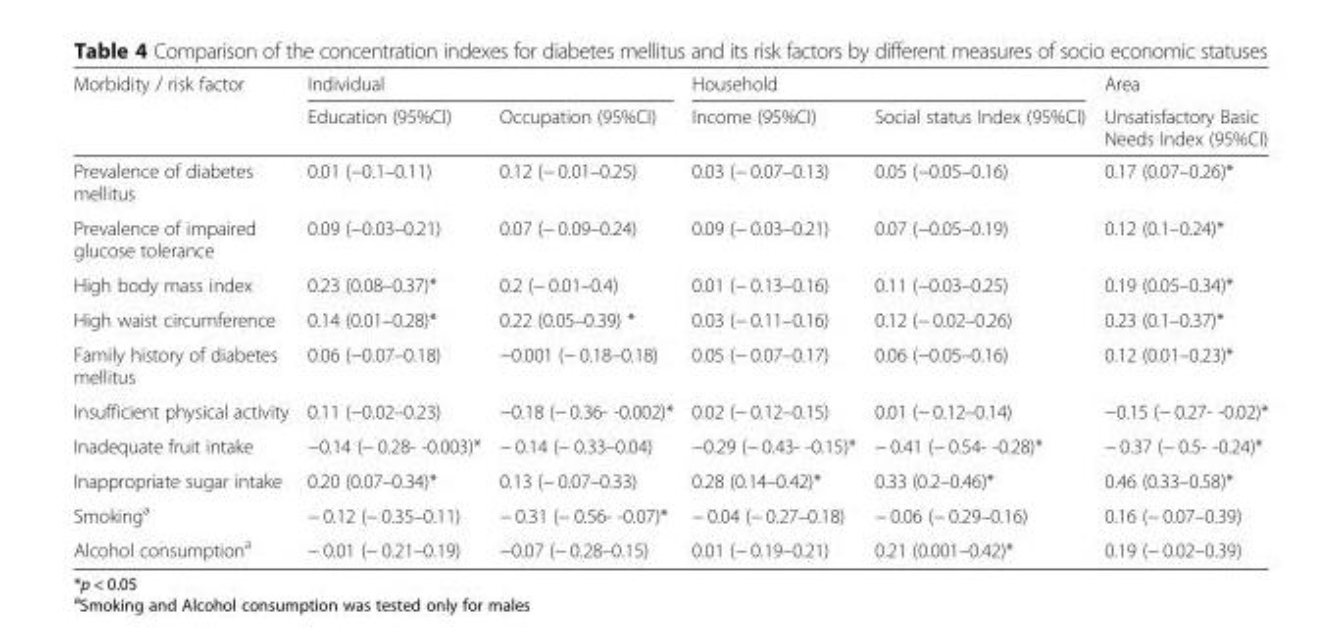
<table><thead><tr><td rowspan="2">Morbidity / risk factor</td><td colspan="2">Individual</td><td colspan="2">Household</td><td rowspan="2">Area Unsatisfactory Basic Needs Index (95%CI)</td></tr><tr><td>Education (95%CI)</td><td>Occupation (95%CI)</td><td>Income (95%CI)</td><td>Social status Index (95%CI)</td></tr></thead><tbody><tr><td>Prevalence of diabetes mellitus</td><td>0.01 (−0.1–0.11)</td><td>0.12 (− 0.01–0.25)</td><td>0.03 (− 0.07–0.13)</td><td>0.05 (−0.05–0.16)</td><td>0.17 (0.07–0.26)*</td></tr><tr><td>Prevalence of impaired glucose tolerance</td><td>0.09 (−0.03–0.21)</td><td>0.07 (− 0.09–0.24)</td><td>0.09 (− 0.03–0.21)</td><td>0.07 (−0.05–0.19)</td><td>0.12 (0.1–0.24)*</td></tr><tr><td>High body mass index</td><td>0.23 (0.08–0.37)*</td><td>0.2 (− 0.01–0.4)</td><td>0.01 (− 0.13–0.16)</td><td>0.11 (−0.03–0.25)</td><td>0.19 (0.05–0.34)*</td></tr><tr><td>High waist circumference</td><td>0.14 (0.01–0.28)*</td><td>0.22 (0.05–0.39) *</td><td>0.03 (− 0.11–0.16)</td><td>0.12 (− 0.02–0.26)</td><td>0.23 (0.1–0.37)*</td></tr><tr><td>Family history of diabetes mellitus</td><td>0.06 (−0.07–0.18)</td><td>−0.001 (− 0.18–0.18)</td><td>0.05 (− 0.07–0.17)</td><td>0.06 (−0.05–0.16)</td><td>0.12 (0.01–0.23)*</td></tr><tr><td>Insufficient physical activity</td><td>0.11 (−0.02–0.23)</td><td>−0.18 (− 0.36- -0.002)*</td><td>0.02 (− 0.12–0.15)</td><td>0.01 (− 0.12–0.14)</td><td>−0.15 (− 0.27- -0.02)*</td></tr><tr><td>Inadequate fruit intake</td><td>−0.14 (− 0.28- -0.003)*</td><td>− 0.14 (− 0.33–0.04)</td><td>−0.29 (− 0.43- -0.15)*</td><td>− 0.41 (− 0.54- -0.28)*</td><td>− 0.37 (− 0.5- -0.24)*</td></tr><tr><td>Inappropriate sugar intake</td><td>0.20 (0.07–0.34)*</td><td>0.13 (− 0.07–0.33)</td><td>0.28 (0.14–0.42)*</td><td>0.33 (0.2–0.46)*</td><td>0.46 (0.33–0.58)*</td></tr><tr><td>Smoking<sup>a</sup></td><td>− 0.12 (− 0.35–0.11)</td><td>− 0.31 (− 0.56- -0.07)*</td><td>− 0.04 (− 0.27–0.18)</td><td>− 0.06 (− 0.29–0.16)</td><td>0.16 (− 0.07–0.39)</td></tr><tr><td>Alcohol consumption<sup>a</sup></td><td>− 0.01 (− 0.21–0.19)</td><td>−0.07 (− 0.28–0.15)</td><td>0.01 (− 0.19–0.21)</td><td>0.21 (0.001–0.42)*</td><td>0.19 (− 0.02–0.39)</td></tr></tbody></table>